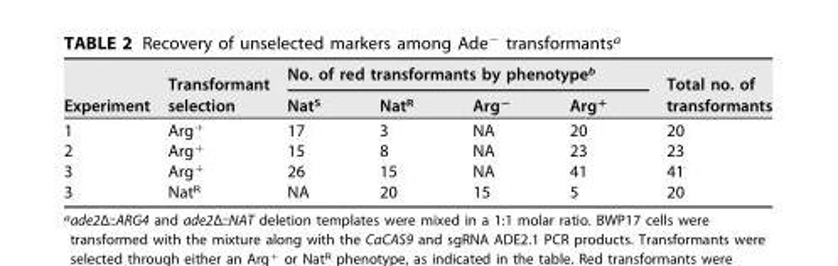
<table><thead><tr><td rowspan="2">Experiment</td><td rowspan="2">Transformant selection</td><td colspan="4">No. of red transformants by phenotype<sup>b</sup></td><td rowspan="2">Total no. of transformants</td></tr><tr><td>Nat<sup>S</sup></td><td>Nat<sup>R</sup></td><td>Arg<sup>−</sup></td><td>Arg<sup>+</sup></td></tr></thead><tbody><tr><td>1</td><td>Arg<sup>+</sup></td><td>17</td><td>3</td><td>NA</td><td>20</td><td>20</td></tr><tr><td>2</td><td>Arg<sup>+</sup></td><td>15</td><td>8</td><td>NA</td><td>23</td><td>23</td></tr><tr><td>3</td><td>Arg<sup>+</sup></td><td>26</td><td>15</td><td>NA</td><td>41</td><td>41</td></tr><tr><td>3</td><td>Nat<sup>R</sup></td><td>NA</td><td>20</td><td>15</td><td>5</td><td>20</td></tr></tbody></table>